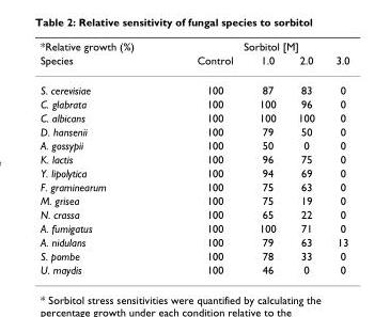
<table><thead><tr><td rowspan="2">*Relative growth (%) Species</td><td colspan="4">Sorbitol [M]</td></tr><tr><td>Control</td><td>1.0</td><td>2.0</td><td>3.0</td></tr></thead><tbody><tr><td>S. cerevisiae</td><td>100</td><td>87</td><td>83</td><td>0</td></tr><tr><td>C. glabrata</td><td>100</td><td>100</td><td>96</td><td>0</td></tr><tr><td>C. albicans</td><td>100</td><td>100</td><td>100</td><td>0</td></tr><tr><td>D. hansenii</td><td>100</td><td>79</td><td>50</td><td>0</td></tr><tr><td>A. gossypii</td><td>100</td><td>50</td><td>0</td><td>0</td></tr><tr><td>K. lactis</td><td>100</td><td>96</td><td>75</td><td>0</td></tr><tr><td>Y. lipolytica</td><td>100</td><td>94</td><td>69</td><td>0</td></tr><tr><td>F. graminearum</td><td>100</td><td>75</td><td>63</td><td>0</td></tr><tr><td>M. grisea</td><td>100</td><td>75</td><td>19</td><td>0</td></tr><tr><td>N. crassa</td><td>100</td><td>65</td><td>22</td><td>0</td></tr><tr><td>A. fumigatus</td><td>100</td><td>100</td><td>71</td><td>0</td></tr><tr><td>A. nidulans</td><td>100</td><td>79</td><td>63</td><td>13</td></tr><tr><td>S. pombe</td><td>100</td><td>78</td><td>33</td><td>0</td></tr><tr><td>U. maydis</td><td>100</td><td>46</td><td>0</td><td>0</td></tr></tbody></table>